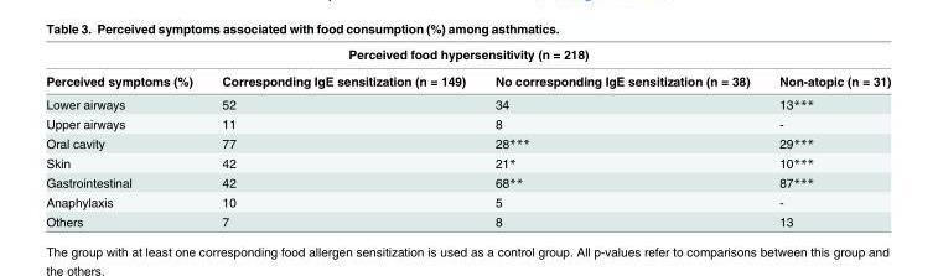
<table><thead><tr><td colspan="4">Perceived food hypersensitivity (n = 218)</td></tr><tr><td>Perceived symptoms (%)</td><td>Corresponding IgE sensitization (n = 149)</td><td>No corresponding IgE sensitization (n = 38)</td><td>Non-atopic (n = 31)</td></tr></thead><tbody><tr><td>Lower airways</td><td>52</td><td>34</td><td>13***</td></tr><tr><td>Upper airways</td><td>11</td><td>8</td><td>-</td></tr><tr><td>Oral cavity</td><td>77</td><td>28***</td><td>29***</td></tr><tr><td>Skin</td><td>42</td><td>21*</td><td>10***</td></tr><tr><td>Gastrointestinal</td><td>42</td><td>68**</td><td>87***</td></tr><tr><td>Anaphylaxis</td><td>10</td><td>5</td><td>-</td></tr><tr><td>Others</td><td>7</td><td>8</td><td>13</td></tr></tbody></table>